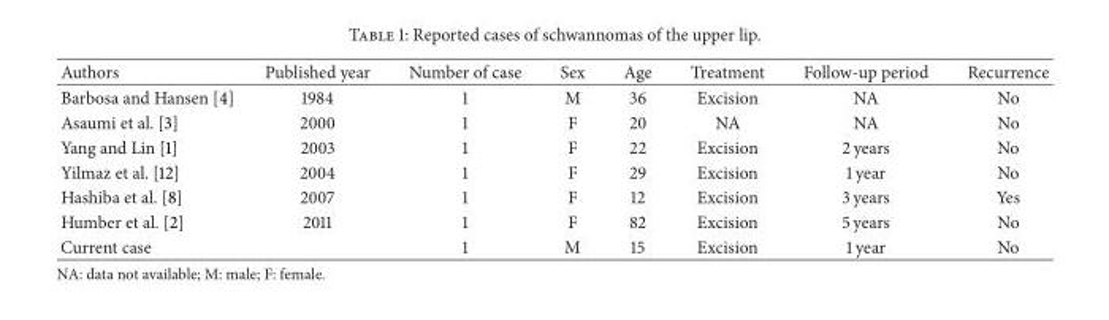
<table><thead><tr><td>Authors</td><td>Published year</td><td>Number of case</td><td>Sex</td><td>Age</td><td>Treatment</td><td>Follow-up period</td><td>Recurrence</td></tr></thead><tbody><tr><td>Barbosa and Hansen [4]</td><td>1984</td><td>1</td><td>M</td><td>36</td><td>Excision</td><td>NA</td><td>No</td></tr><tr><td>Asaumi et al. [3]</td><td>2000</td><td>1</td><td>F</td><td>20</td><td>NA</td><td>NA</td><td>No</td></tr><tr><td>Yang and Lin [1]</td><td>2003</td><td>1</td><td>F</td><td>22</td><td>Excision</td><td>2 years</td><td>No</td></tr><tr><td>Yilmaz et al. [12]</td><td>2004</td><td>1</td><td>F</td><td>29</td><td>Excision</td><td>1 year</td><td>No</td></tr><tr><td>Hashiba et al. [8]</td><td>2007</td><td>1</td><td>F</td><td>12</td><td>Excision</td><td>3 years</td><td>Yes</td></tr><tr><td>Humber et al. [2]</td><td>2011</td><td>1</td><td>F</td><td>82</td><td>Excision</td><td>5 years</td><td>No</td></tr><tr><td>Current case</td><td></td><td>1</td><td>M</td><td>15</td><td>Excision</td><td>1 year</td><td>No</td></tr></tbody></table>